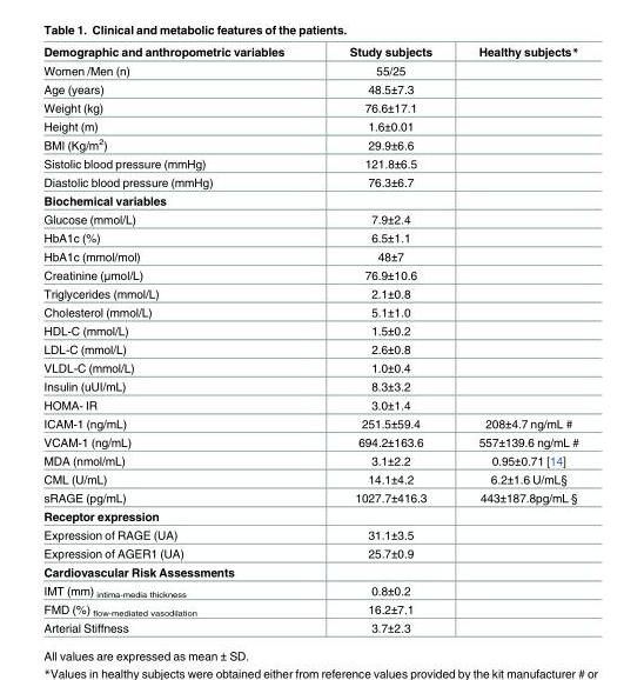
<table><thead><tr><td>Demographic and anthropometric variables</td><td>Study subjects</td><td>Healthy subjects*</td></tr></thead><tbody><tr><td>Women /Men (n)</td><td>55/25</td><td></td></tr><tr><td>Age (years)</td><td>48.5±7.3</td><td></td></tr><tr><td>Weight (kg)</td><td>76.6±17.1</td><td></td></tr><tr><td>Height (m)</td><td>1.6±0.01</td><td></td></tr><tr><td>BMI (Kg/m<sup>2</sup>)</td><td>29.9±6.6</td><td></td></tr><tr><td>Sistolic blood pressure (mmHg)</td><td>121.8±6.5</td><td></td></tr><tr><td>Diastolic blood pressure (mmHg)</td><td>76.3±6.7</td><td></td></tr><tr><td colspan="3">Biochemical variables</td></tr><tr><td>Glucose (mmol/L)</td><td>7.9±2.4</td><td></td></tr><tr><td>HbA1c (%)</td><td>6.5±1.1</td><td></td></tr><tr><td>HbA1c (mmol/mol)</td><td>48±7</td><td></td></tr><tr><td>Creatinine (μmol/L)</td><td>76.9±10.6</td><td></td></tr><tr><td>Triglycerides (mmol/L)</td><td>2.1±0.8</td><td></td></tr><tr><td>Cholesterol (mmol/L)</td><td>5.1±1.0</td><td></td></tr><tr><td>HDL-C (mmol/L)</td><td>1.5±0.2</td><td></td></tr><tr><td>LDL-C (mmol/L)</td><td>2.6±0.8</td><td></td></tr><tr><td>VLDL-C (mmol/L)</td><td>1.0±0.4</td><td></td></tr><tr><td>Insulin (uUI/mL)</td><td>8.3±3.2</td><td></td></tr><tr><td>HOMA- IR</td><td>3.0±1.4</td><td></td></tr><tr><td>ICAM-1 (ng/mL)</td><td>251.5±59.4</td><td>208±4.7 ng/mL #</td></tr><tr><td>VCAM-1 (ng/mL)</td><td>694.2±163.6</td><td>557±139.6 ng/mL #</td></tr><tr><td>MDA (nmol/mL)</td><td>3.1±2.2</td><td>0.95±0.71 [14]</td></tr><tr><td>CML (U/mL)</td><td>14.1±4.2</td><td>6.2±1.6 U/mL§</td></tr><tr><td>sRAGE (pg/mL)</td><td>1027.7±416.3</td><td>443±187.8pg/mL §</td></tr><tr><td colspan="3">Receptor expression</td></tr><tr><td>Expression of RAGE (UA)</td><td>31.1±3.5</td><td></td></tr><tr><td>Expression of AGER1 (UA)</td><td>25.7±0.9</td><td></td></tr><tr><td colspan="3">Cardiovascular Risk Assessments</td></tr><tr><td>IMT (mm) <sub>intima-media thickness</sub></td><td>0.8±0.2</td><td></td></tr><tr><td>FMD (%) <sub>flow-mediated vasodilation</sub></td><td>16.2±7.1</td><td></td></tr><tr><td>Arterial Stiffness</td><td>3.7±2.3</td><td></td></tr></tbody></table>